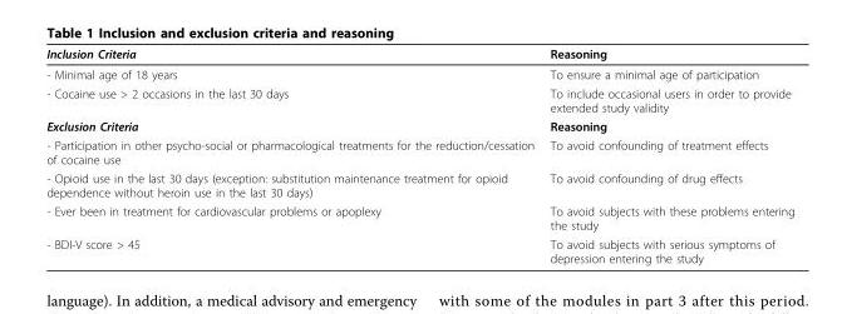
<table><thead><tr><td>Inclusion Criteria</td><td>Reasoning</td></tr></thead><tbody><tr><td>- Minimal age of 18 years</td><td>To ensure a minimal age of participation</td></tr><tr><td>- Cocaine use &gt; 2 occasions in the last 30 days</td><td>To include occasional users in order to provide extended study validity</td></tr><tr><td>Exclusion Criteria</td><td>Reasoning</td></tr><tr><td>- Participation in other psycho-social or pharmacological treatments for the reduction/cessation of cocaine use</td><td>To avoid confounding of treatment effects</td></tr><tr><td>- Opioid use in the last 30 days (exception: substitution maintenance treatment for opioid dependence without heroin use in the last 30 days)</td><td>To avoid confounding of drug effects</td></tr><tr><td>- Ever been in treatment for cardiovascular problems or apoplexy</td><td>To avoid subjects with these problems entering the study</td></tr><tr><td>- BDI-V score &gt; 45</td><td>To avoid subjects with serious symptoms of depression entering the study</td></tr></tbody></table>